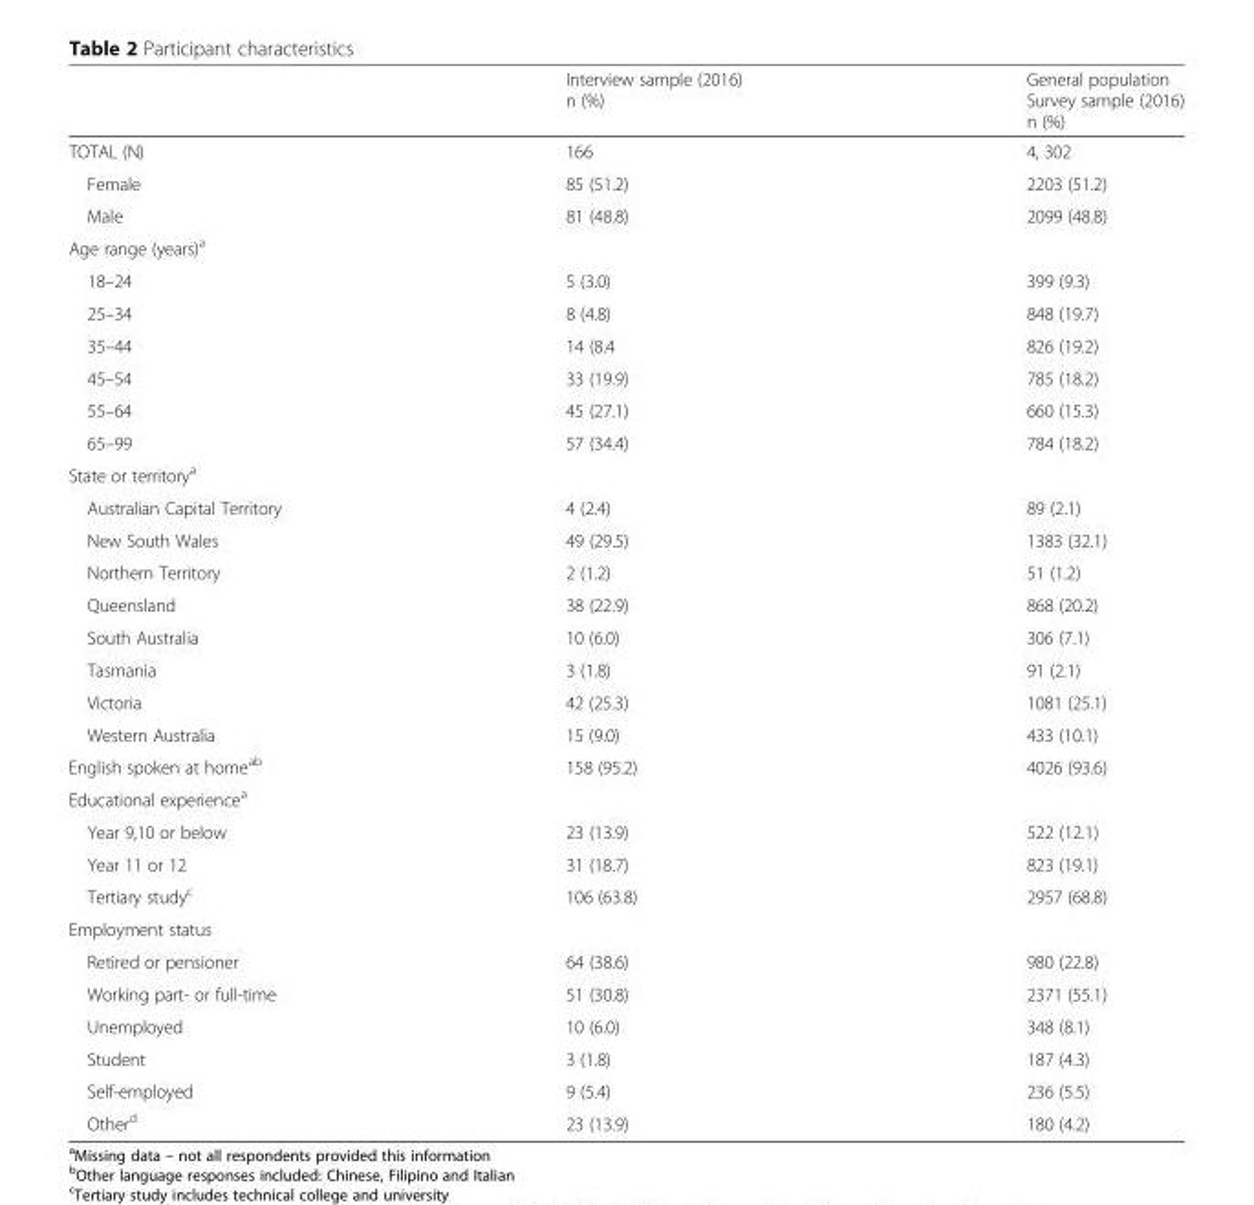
<table><thead><tr><td></td><td>Interview sample (2016) n (%)</td><td>General population Survey sample (2016) n (%)</td></tr></thead><tbody><tr><td>TOTAL (N)</td><td>166</td><td>4, 302</td></tr><tr><td>Female</td><td>85 (51.2)</td><td>2203 (51.2)</td></tr><tr><td>Male</td><td>81 (48.8)</td><td>2099 (48.8)</td></tr><tr><td colspan="3">Age range (years)<sup>a</sup></td></tr><tr><td>18–24</td><td>5 (3.0)</td><td>399 (9.3)</td></tr><tr><td>25–34</td><td>8 (4.8)</td><td>848 (19.7)</td></tr><tr><td>35–44</td><td>14 (8.4</td><td>826 (19.2)</td></tr><tr><td>45–54</td><td>33 (19.9)</td><td>785 (18.2)</td></tr><tr><td>55–64</td><td>45 (27.1)</td><td>660 (15.3)</td></tr><tr><td>65–99</td><td>57 (34.4)</td><td>784 (18.2)</td></tr><tr><td colspan="3">State or territory<sup>a</sup></td></tr><tr><td>Australian Capital Territory</td><td>4 (2.4)</td><td>89 (2.1)</td></tr><tr><td>New South Wales</td><td>49 (29.5)</td><td>1383 (32.1)</td></tr><tr><td>Northern Territory</td><td>2 (1.2)</td><td>51 (1.2)</td></tr><tr><td>Queensland</td><td>38 (22.9)</td><td>868 (20.2)</td></tr><tr><td>South Australia</td><td>10 (6.0)</td><td>306 (7.1)</td></tr><tr><td>Tasmania</td><td>3 (1.8)</td><td>91 (2.1)</td></tr><tr><td>Victoria</td><td>42 (25.3)</td><td>1081 (25.1)</td></tr><tr><td>Western Australia</td><td>15 (9.0)</td><td>433 (10.1)</td></tr><tr><td>English spoken at home<sup>ab</sup></td><td>158 (95.2)</td><td>4026 (93.6)</td></tr><tr><td colspan="3">Educational experience<sup>a</sup></td></tr><tr><td>Year 9,10 or below</td><td>23 (13.9)</td><td>522 (12.1)</td></tr><tr><td>Year 11 or 12</td><td>31 (18.7)</td><td>823 (19.1)</td></tr><tr><td>Tertiary study<sup>c</sup></td><td>106 (63.8)</td><td>2957 (68.8)</td></tr><tr><td colspan="3">Employment status</td></tr><tr><td>Retired or pensioner</td><td>64 (38.6)</td><td>980 (22.8)</td></tr><tr><td>Working part- or full-time</td><td>51 (30.8)</td><td>2371 (55.1)</td></tr><tr><td>Unemployed</td><td>10 (6.0)</td><td>348 (8.1)</td></tr><tr><td>Student</td><td>3 (1.8)</td><td>187 (4.3)</td></tr><tr><td>Self-employed</td><td>9 (5.4)</td><td>236 (5.5)</td></tr><tr><td>Other<sup>d</sup></td><td>23 (13.9)</td><td>180 (4.2)</td></tr></tbody></table>